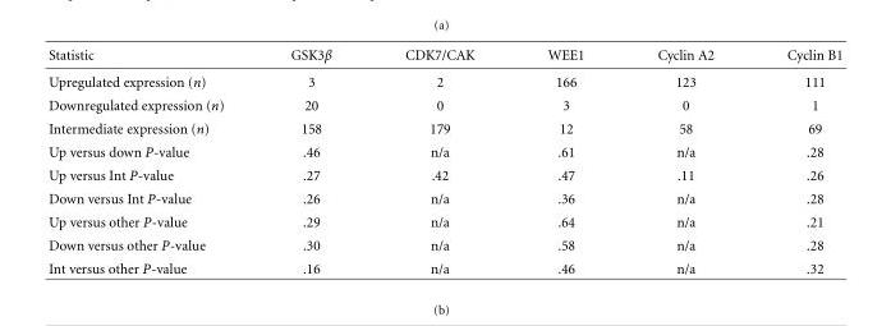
<table><thead><tr><td>Statistic</td><td>GSK3β</td><td>CDK7/CAK</td><td>WEE1</td><td>Cyclin A2</td><td>Cyclin B1</td></tr></thead><tbody><tr><td>Upregulated expression (n)</td><td>3</td><td>2</td><td>166</td><td>123</td><td>111</td></tr><tr><td>Downregulated expression (n)</td><td>20</td><td>0</td><td>3</td><td>0</td><td>1</td></tr><tr><td>Intermediate expression (n)</td><td>158</td><td>179</td><td>12</td><td>58</td><td>69</td></tr><tr><td>Up versus down P-value</td><td>.46</td><td>n/a</td><td>.61</td><td>n/a</td><td>.28</td></tr><tr><td>Up versus Int P-value</td><td>.27</td><td>.42</td><td>.47</td><td>.11</td><td>.26</td></tr><tr><td>Down versus Int P-value</td><td>.26</td><td>n/a</td><td>.36</td><td>n/a</td><td>.28</td></tr><tr><td>Up versus other P-value</td><td>.29</td><td>n/a</td><td>.64</td><td>n/a</td><td>.21</td></tr><tr><td>Down versus other P-value</td><td>.30</td><td>n/a</td><td>.58</td><td>n/a</td><td>.28</td></tr><tr><td>Int versus other P-value</td><td>.16</td><td>n/a</td><td>.46</td><td>n/a</td><td>.32</td></tr></tbody></table>